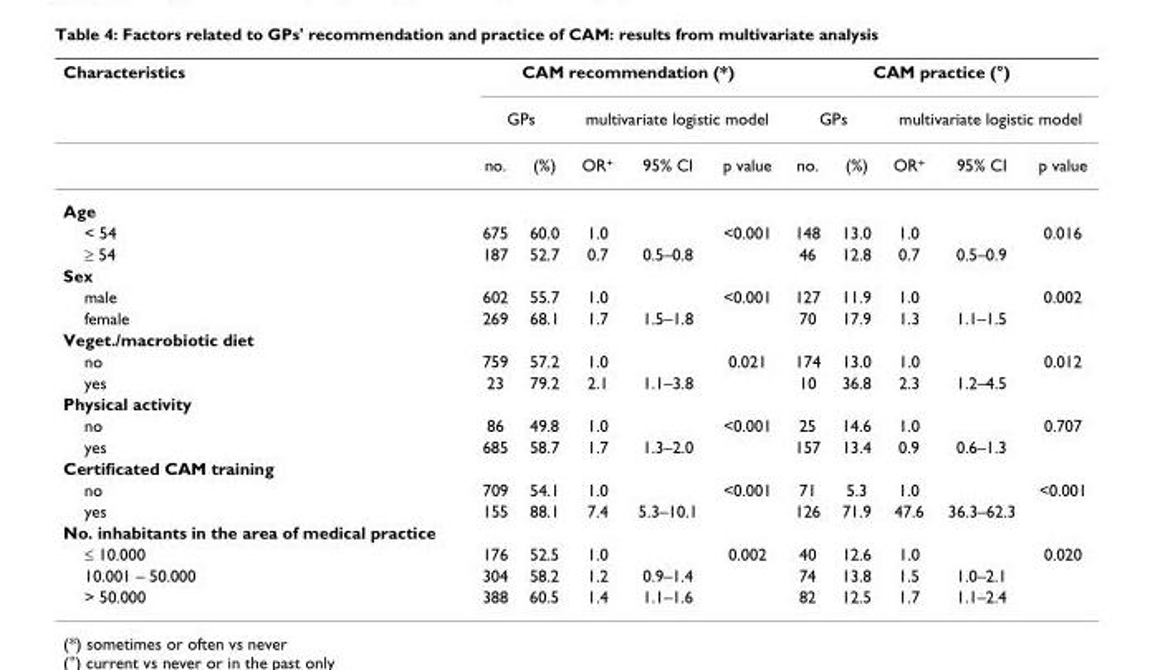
<table><thead><tr><td rowspan="3">Characteristics</td><td colspan="5">CAM recommendation (*)</td><td colspan="5">CAM practice (°)</td></tr><tr><td colspan="2">GPs</td><td colspan="3">multivariate logistic model</td><td colspan="2">GPs</td><td colspan="3">multivariate logistic model</td></tr><tr><td>no.</td><td>(%)</td><td>OR<sup>+</sup></td><td>95% CI</td><td>p value</td><td>no.</td><td>(%)</td><td>OR<sup>+</sup></td><td>95% CI</td><td>p value</td></tr></thead><tbody><tr><td colspan="11">Age</td></tr><tr><td>&lt; 54</td><td>675</td><td>60.0</td><td>1.0</td><td></td><td>&lt;0.001</td><td>148</td><td>13.0</td><td>1.0</td><td></td><td>0.016</td></tr><tr><td>≥ 54</td><td>187</td><td>52.7</td><td>0.7</td><td>0.5–0.8</td><td></td><td>46</td><td>12.8</td><td>0.7</td><td>0.5–0.9</td><td></td></tr><tr><td colspan="11">Sex</td></tr><tr><td>male</td><td>602</td><td>55.7</td><td>1.0</td><td></td><td>&lt;0.001</td><td>127</td><td>11.9</td><td>1.0</td><td></td><td>0.002</td></tr><tr><td>female</td><td>269</td><td>68.1</td><td>1.7</td><td>1.5–1.8</td><td></td><td>70</td><td>17.9</td><td>1.3</td><td>1.1–1.5</td><td></td></tr><tr><td colspan="11">Veget./macrobiotic diet</td></tr><tr><td>no</td><td>759</td><td>57.2</td><td>1.0</td><td></td><td>0.021</td><td>174</td><td>13.0</td><td>1.0</td><td></td><td>0.012</td></tr><tr><td>yes</td><td>23</td><td>79.2</td><td>2.1</td><td>1.1–3.8</td><td></td><td>10</td><td>36.8</td><td>2.3</td><td>1.2–4.5</td><td></td></tr><tr><td colspan="11">Physical activity</td></tr><tr><td>no</td><td>86</td><td>49.8</td><td>1.0</td><td></td><td>&lt;0.001</td><td>25</td><td>14.6</td><td>1.0</td><td></td><td>0.707</td></tr><tr><td>yes</td><td>685</td><td>58.7</td><td>1.7</td><td>1.3–2.0</td><td></td><td>157</td><td>13.4</td><td>0.9</td><td>0.6–1.3</td><td></td></tr><tr><td colspan="11">Certificated CAM training</td></tr><tr><td>no</td><td>709</td><td>54.1</td><td>1.0</td><td></td><td>&lt;0.001</td><td>71</td><td>5.3</td><td>1.0</td><td></td><td>&lt;0.001</td></tr><tr><td>yes</td><td>155</td><td>88.1</td><td>7.4</td><td>5.3–10.1</td><td></td><td>126</td><td>71.9</td><td>47.6</td><td>36.3–62.3</td><td></td></tr><tr><td colspan="11">No. inhabitants in the area of medical practice</td></tr><tr><td>≤ 10.000</td><td>176</td><td>52.5</td><td>1.0</td><td></td><td>0.002</td><td>40</td><td>12.6</td><td>1.0</td><td></td><td>0.020</td></tr><tr><td>10.001 – 50.000</td><td>304</td><td>58.2</td><td>1.2</td><td>0.9–1.4</td><td></td><td>74</td><td>13.8</td><td>1.5</td><td>1.0–2.1</td><td></td></tr><tr><td>&gt; 50.000</td><td>388</td><td>60.5</td><td>1.4</td><td>1.1–1.6</td><td></td><td>82</td><td>12.5</td><td>1.7</td><td>1.1–2.4</td><td></td></tr></tbody></table>